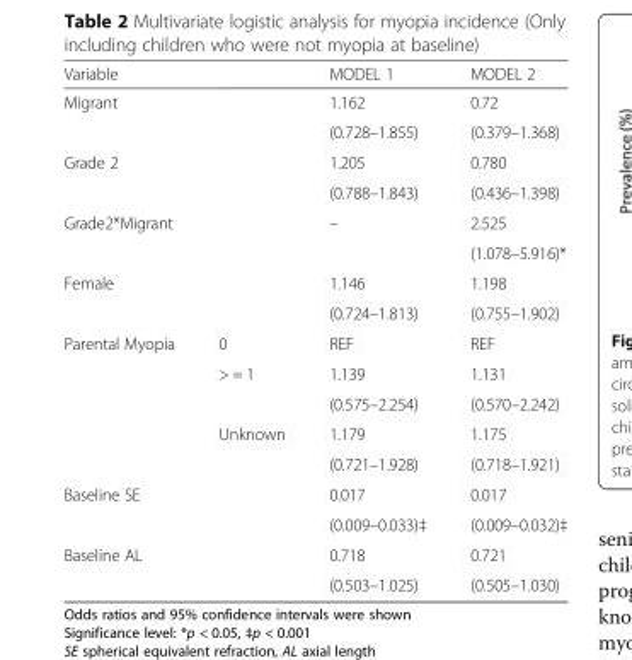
<table><thead><tr><td>Variable</td><td></td><td>MODEL 1</td><td>MODEL 2</td></tr></thead><tbody><tr><td rowspan="2">Migrant</td><td></td><td>1.162</td><td>0.72</td></tr><tr><td></td><td>(0.728–1.855)</td><td>(0.379–1.368)</td></tr><tr><td rowspan="2">Grade 2</td><td></td><td>1.205</td><td>0.780</td></tr><tr><td></td><td>(0.788–1.843)</td><td>(0.436–1.398)</td></tr><tr><td rowspan="2">Grade2*Migrant</td><td></td><td>–</td><td>2.525</td></tr><tr><td></td><td></td><td>(1.078–5.916)*</td></tr><tr><td rowspan="2">Female</td><td></td><td>1.146</td><td>1.198</td></tr><tr><td></td><td>(0.724–1.813)</td><td>(0.755–1.902)</td></tr><tr><td rowspan="5">Parental Myopia</td><td>0</td><td>REF</td><td>REF</td></tr><tr><td>&gt; = 1</td><td>1.139</td><td>1.131</td></tr><tr><td></td><td>(0.575–2.254)</td><td>(0.570–2.242)</td></tr><tr><td>Unknown</td><td>1.179</td><td>1.175</td></tr><tr><td></td><td>(0.721–1.928)</td><td>(0.718–1.921)</td></tr><tr><td rowspan="2">Baseline SE</td><td></td><td>0.017</td><td>0.017</td></tr><tr><td></td><td>(0.009–0.033)‡</td><td>(0.009–0.032)‡</td></tr><tr><td rowspan="2">Baseline AL</td><td></td><td>0.718</td><td>0.721</td></tr><tr><td></td><td>(0.503–1.025)</td><td>(0.505–1.030)</td></tr></tbody></table>